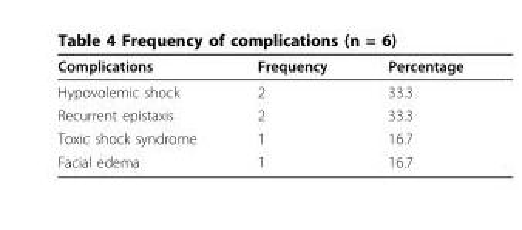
<table><thead><tr><td>Complications</td><td>Frequency</td><td>Percentage</td></tr></thead><tbody><tr><td>Hypovolemic shock</td><td>2</td><td>33.3</td></tr><tr><td>Recurrent epistaxis</td><td>2</td><td>33.3</td></tr><tr><td>Toxic shock syndrome</td><td>1</td><td>16.7</td></tr><tr><td>Facial edema</td><td>1</td><td>16.7</td></tr></tbody></table>